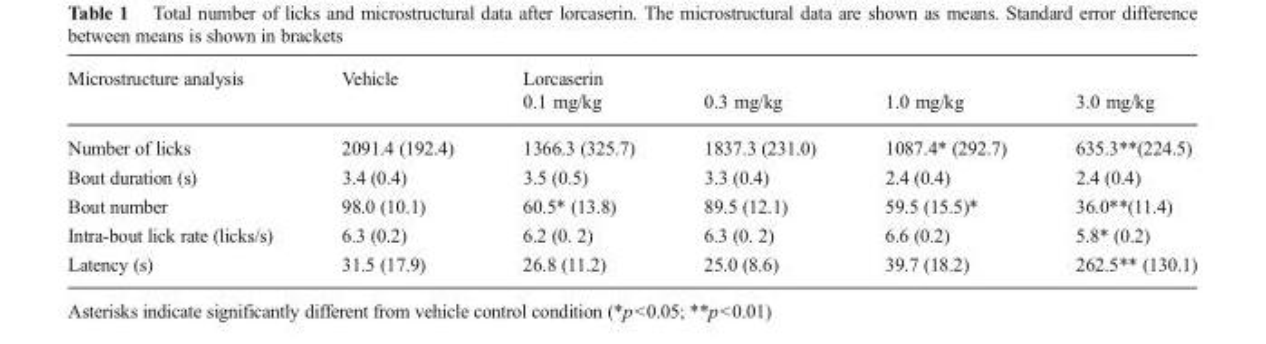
<table><thead><tr><td rowspan="2">Microstructure analysis</td><td rowspan="2">Vehicle</td><td rowspan="2">Lorcaserin 0.1 mg/kg</td><td rowspan="2">0.3 mg/kg</td><td rowspan="2">1.0 mg/kg</td><td rowspan="2">3.0 mg/kg</td></tr><tr></tr></thead><tbody><tr><td>Number of licks</td><td>2091.4 (192.4)</td><td>1366.3 (325.7)</td><td>1837.3 (231.0)</td><td>1087.4* (292.7)</td><td>635.3**(224.5)</td></tr><tr><td>Bout duration (s)</td><td>3.4 (0.4)</td><td>3.5 (0.5)</td><td>3.3 (0.4)</td><td>2.4 (0.4)</td><td>2.4 (0.4)</td></tr><tr><td>Bout number</td><td>98.0 (10.1)</td><td>60.5* (13.8)</td><td>89.5 (12.1)</td><td>59.5 (15.5)*</td><td>36.0**(11.4)</td></tr><tr><td>Intra-bout lick rate (licks/s)</td><td>6.3 (0.2)</td><td>6.2 (0. 2)</td><td>6.3 (0. 2)</td><td>6.6 (0.2)</td><td>5.8* (0.2)</td></tr><tr><td>Latency (s)</td><td>31.5 (17.9)</td><td>26.8 (11.2)</td><td>25.0 (8.6)</td><td>39.7 (18.2)</td><td>262.5** (130.1)</td></tr></tbody></table>